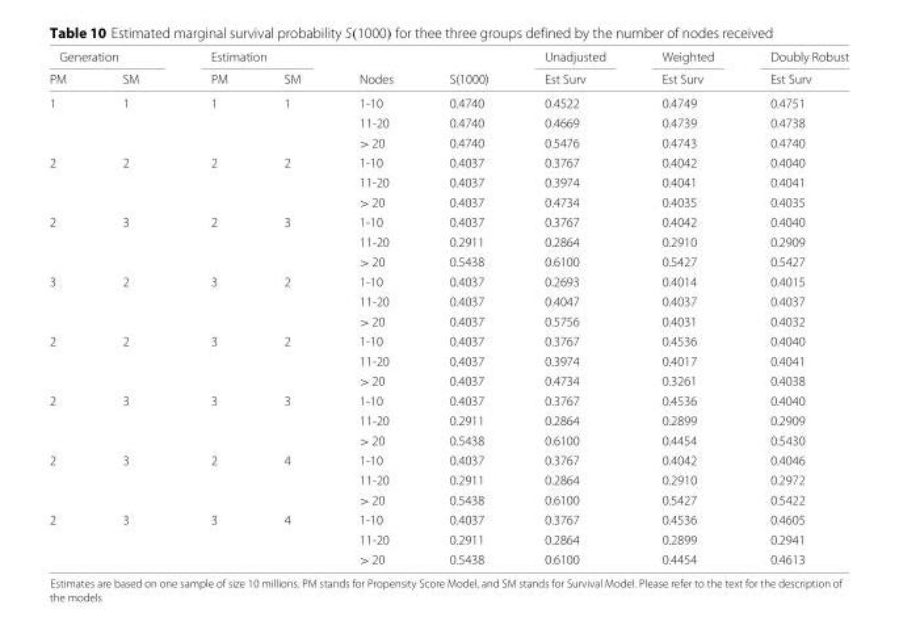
<table><thead><tr><td colspan="2">Generation</td><td colspan="2">Estimation</td><td rowspan="2">Nodes</td><td rowspan="2">S(1000)</td><td rowspan="2">Unadjusted Est Surv</td><td rowspan="2">Weighted Est Surv</td><td rowspan="2">Doubly Robust Est Surv</td></tr><tr><td>PM</td><td>SM</td><td>PM</td><td>SM</td></tr></thead><tbody><tr><td rowspan="3">1</td><td>1</td><td>1</td><td>1</td><td>1-10</td><td>0.4740</td><td>0.4522</td><td>0.4749</td><td>0.4751</td></tr><tr><td></td><td></td><td></td><td>11-20</td><td>0.4740</td><td>0.4669</td><td>0.4739</td><td>0.4738</td></tr><tr><td></td><td></td><td></td><td>&gt; 20</td><td>0.4740</td><td>0.5476</td><td>0.4743</td><td>0.4740</td></tr><tr><td rowspan="3">2</td><td>2</td><td>2</td><td>2</td><td>1-10</td><td>0.4037</td><td>0.3767</td><td>0.4042</td><td>0.4040</td></tr><tr><td></td><td></td><td></td><td>11-20</td><td>0.4037</td><td>0.3974</td><td>0.4041</td><td>0.4041</td></tr><tr><td></td><td></td><td></td><td>&gt; 20</td><td>0.4037</td><td>0.4734</td><td>0.4035</td><td>0.4035</td></tr><tr><td rowspan="3">2</td><td>3</td><td>2</td><td>3</td><td>1-10</td><td>0.4037</td><td>0.3767</td><td>0.4042</td><td>0.4040</td></tr><tr><td></td><td></td><td></td><td>11-20</td><td>0.2911</td><td>0.2864</td><td>0.2910</td><td>0.2909</td></tr><tr><td></td><td></td><td></td><td>&gt; 20</td><td>0.5438</td><td>0.6100</td><td>0.5427</td><td>0.5427</td></tr><tr><td rowspan="3">3</td><td>2</td><td>3</td><td>2</td><td>1-10</td><td>0.4037</td><td>0.2693</td><td>0.4014</td><td>0.4015</td></tr><tr><td></td><td></td><td></td><td>11-20</td><td>0.4037</td><td>0.4047</td><td>0.4037</td><td>0.4037</td></tr><tr><td></td><td></td><td></td><td>&gt; 20</td><td>0.4037</td><td>0.5756</td><td>0.4031</td><td>0.4032</td></tr><tr><td rowspan="3">2</td><td>2</td><td>3</td><td>2</td><td>1-10</td><td>0.4037</td><td>0.3767</td><td>0.4536</td><td>0.4040</td></tr><tr><td></td><td></td><td></td><td>11-20</td><td>0.4037</td><td>0.3974</td><td>0.4017</td><td>0.4041</td></tr><tr><td></td><td></td><td></td><td>&gt; 20</td><td>0.4037</td><td>0.4734</td><td>0.3261</td><td>0.4038</td></tr><tr><td rowspan="3">2</td><td>3</td><td>3</td><td>3</td><td>1-10</td><td>0.4037</td><td>0.3767</td><td>0.4536</td><td>0.4040</td></tr><tr><td></td><td></td><td></td><td>11-20</td><td>0.2911</td><td>0.2864</td><td>0.2899</td><td>0.2909</td></tr><tr><td></td><td></td><td></td><td>&gt; 20</td><td>0.5438</td><td>0.6100</td><td>0.4454</td><td>0.5430</td></tr><tr><td rowspan="3">2</td><td>3</td><td>2</td><td>4</td><td>1-10</td><td>0.4037</td><td>0.3767</td><td>0.4042</td><td>0.4046</td></tr><tr><td></td><td></td><td></td><td>11-20</td><td>0.2911</td><td>0.2864</td><td>0.2910</td><td>0.2972</td></tr><tr><td></td><td></td><td></td><td>&gt; 20</td><td>0.5438</td><td>0.6100</td><td>0.5427</td><td>0.5422</td></tr><tr><td rowspan="3">2</td><td>3</td><td>3</td><td>4</td><td>1-10</td><td>0.4037</td><td>0.3767</td><td>0.4536</td><td>0.4605</td></tr><tr><td></td><td></td><td></td><td>11-20</td><td>0.2911</td><td>0.2864</td><td>0.2899</td><td>0.2941</td></tr><tr><td></td><td></td><td></td><td>&gt; 20</td><td>0.5438</td><td>0.6100</td><td>0.4454</td><td>0.4613</td></tr></tbody></table>